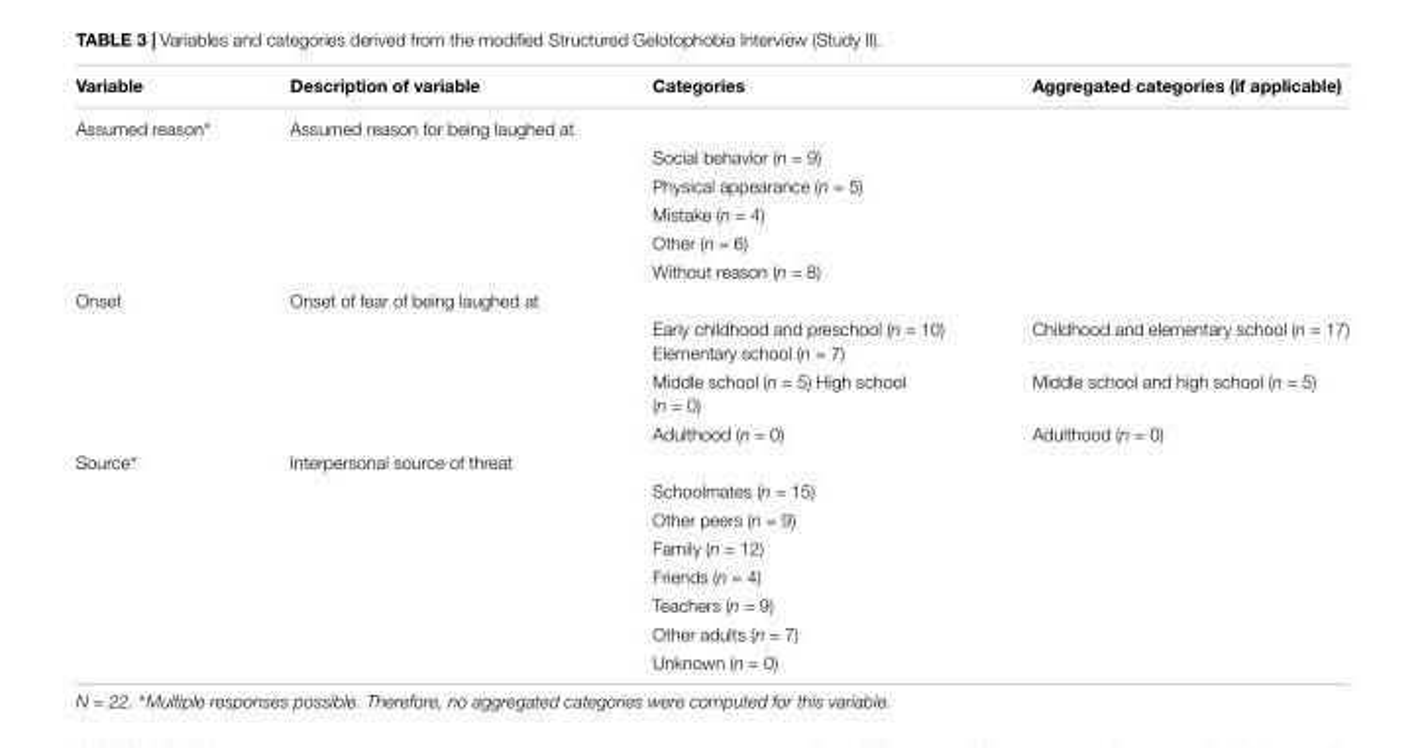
<table><thead><tr><td>Variable</td><td>Description of variable</td><td>Categories</td><td>Aggregated categories (if applicable)</td></tr></thead><tbody><tr><td rowspan="6">Assumed reason∗</td><td>Assumed reason for being laughed at</td><td></td><td></td></tr><tr><td></td><td>Social behavior (n = 9)</td><td></td></tr><tr><td></td><td>Physical appearance (n = 5)</td><td></td></tr><tr><td></td><td>Mistake (n = 4)</td><td></td></tr><tr><td></td><td>Other (n = 6)</td><td></td></tr><tr><td></td><td>Without reason (n = 8)</td><td></td></tr><tr><td rowspan="4">Onset</td><td>Onset of fear of being laughed at</td><td></td><td></td></tr><tr><td></td><td>Early childhood and preschool (n = 10) Elementary school (n = 7)</td><td>Childhood and elementary school (n = 17)</td></tr><tr><td></td><td>Middle school (n = 5) High school (n = 0)</td><td>Middle school and high school (n = 5)</td></tr><tr><td></td><td>Adulthood (n = 0)</td><td>Adulthood (n = 0)</td></tr><tr><td rowspan="8">Source∗</td><td>Interpersonal source of threat</td><td></td><td></td></tr><tr><td></td><td>Schoolmates (n = 15)</td><td></td></tr><tr><td></td><td>Other peers (n = 9)</td><td></td></tr><tr><td></td><td>Family (n = 12)</td><td></td></tr><tr><td></td><td>Friends (n = 4)</td><td></td></tr><tr><td></td><td>Teachers (n = 9)</td><td></td></tr><tr><td></td><td>Other adults (n = 7)</td><td></td></tr><tr><td></td><td>Unknown (n = 0)</td><td></td></tr></tbody></table>